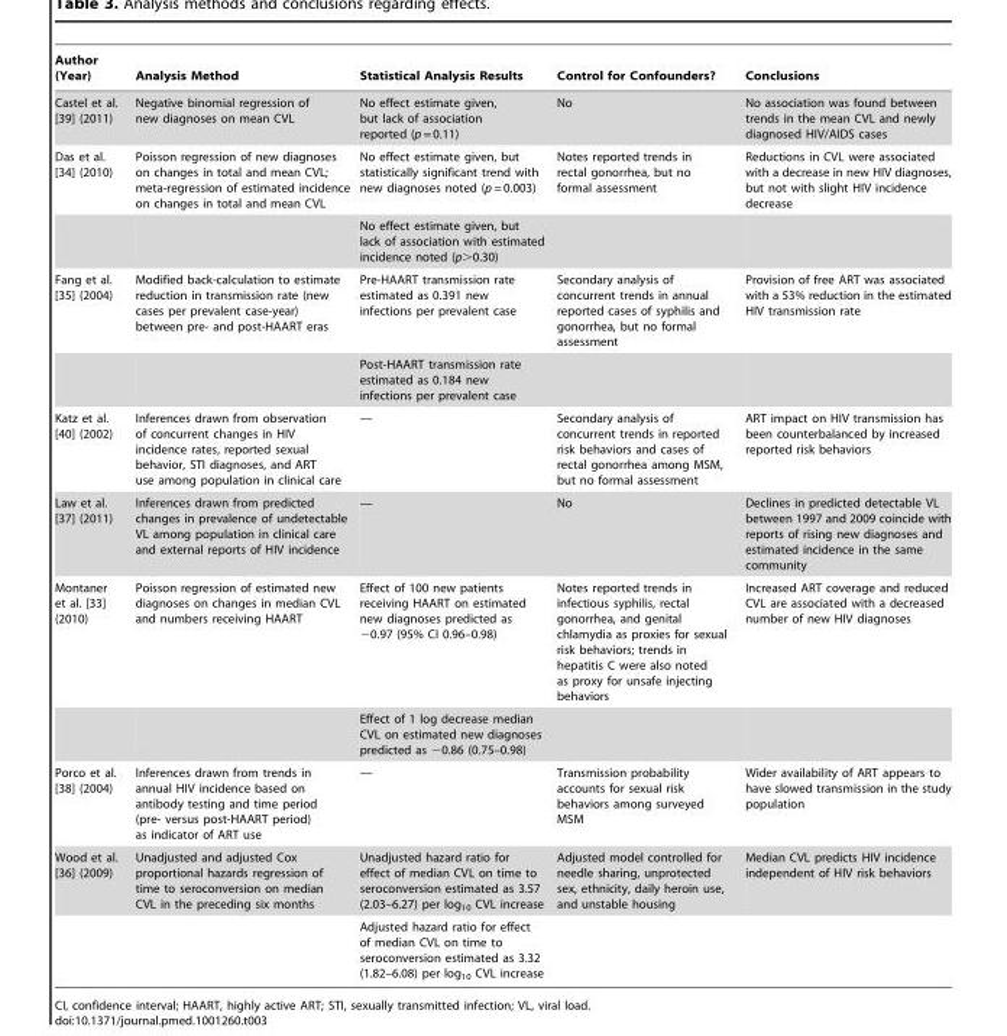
<table><thead><tr><td>Author (Year)</td><td>Analysis Method</td><td>Statistical Analysis Results</td><td>Control for Confounders?</td><td>Conclusions</td></tr></thead><tbody><tr><td>Castel et al. [39] (2011)</td><td>Negative binomial regression of new diagnoses on mean CVL</td><td>No effect estimate given, but lack of association reported (p = 0.11)</td><td>No</td><td>No association was found between trends in the mean CVL and newly diagnosed HIV/AIDS cases</td></tr><tr><td rowspan="2">Das et al. [34] (2010)</td><td>Poisson regression of new diagnoses on changes in total and mean CVL; meta-regression of estimated incidence on changes in total and mean CVL</td><td>No effect estimate given, but statistically significant trend with new diagnoses noted (p = 0.003)</td><td>Notes reported trends in rectal gonorrhea, but no formal assessment</td><td>Reductions in CVL were associated with a decrease in new HIV diagnoses, but not with slight HIV incidence decrease</td></tr><tr><td></td><td>No effect estimate given, but lack of association with estimated incidence noted (p&gt;0.30)</td><td></td><td></td></tr><tr><td rowspan="2">Fang et al. [35] (2004)</td><td>Modified back-calculation to estimate reduction in transmission rate (new cases per prevalent case-year) between pre- and post-HAART eras</td><td>Pre-HAART transmission rate estimated as 0.391 new infections per prevalent case</td><td>Secondary analysis of concurrent trends in annual reported cases of syphilis and gonorrhea, but no formal assessment</td><td>Provision of free ART was associated with a 53% reduction in the estimated HIV transmission rate</td></tr><tr><td></td><td>Post-HAART transmission rate estimated as 0.184 new infections per prevalent case</td><td></td><td></td></tr><tr><td>Katz et al. [40] (2002)</td><td>Inferences drawn from observation of concurrent changes in HIV incidence rates, reported sexual behavior, STI diagnoses, and ART use among population in clinical care</td><td>—</td><td>Secondary analysis of concurrent trends in reported risk behaviors and cases of rectal gonorrhea among MSM, but no formal assessment</td><td>ART impact on HIV transmission has been counterbalanced by increased reported risk behaviors</td></tr><tr><td>Law et al. [37] (2011)</td><td>Inferences drawn from predicted changes in prevalence of undetectable VL among population in clinical care and external reports of HIV incidence</td><td>—</td><td>No</td><td>Declines in predicted detectable VL between 1997 and 2009 coincide with reports of rising new diagnoses and estimated incidence in the same community</td></tr><tr><td rowspan="2">Montaner et al. [33] (2010)</td><td>Poisson regression of estimated new diagnoses on changes in median CVL and numbers receiving HAART</td><td>Effect of 100 new patients receiving HAART on estimated new diagnoses predicted as −0.97 (95% CI 0.96–0.98)</td><td>Notes reported trends in infectious syphilis, rectal gonorrhea, and genital chlamydia as proxies for sexual risk behaviors; trends in hepatitis C were also noted as proxy for unsafe injecting behaviors</td><td>Increased ART coverage and reduced CVL are associated with a decreased number of new HIV diagnoses</td></tr><tr><td></td><td>Effect of 1 log decrease median CVL on estimated new diagnoses predicted as −0.86 (0.75–0.98)</td><td></td><td></td></tr><tr><td>Porco et al. [38] (2004)</td><td>Inferences drawn from trends in annual HIV incidence based on antibody testing and time period (pre- versus post-HAART period) as indicator of ART use</td><td>—</td><td>Transmission probability accounts for sexual risk behaviors among surveyed MSM</td><td>Wider availability of ART appears to have slowed transmission in the study population</td></tr><tr><td rowspan="2">Wood et al. [36] (2009)</td><td>Unadjusted and adjusted Cox proportional hazards regression of time to seroconversion on median CVL in the preceding six months</td><td>Unadjusted hazard ratio for effect of median CVL on time to seroconversion estimated as 3.57 (2.03–6.27) per log<sub>10</sub> CVL increase</td><td>Adjusted model controlled for needle sharing, unprotected sex, ethnicity, daily heroin use, and unstable housing</td><td>Median CVL predicts HIV incidence independent of HIV risk behaviors</td></tr><tr><td></td><td>Adjusted hazard ratio for effect of median CVL on time to seroconversion estimated as 3.32 (1.82–6.08) per log<sub>10</sub> CVL increase</td><td></td><td></td></tr></tbody></table>